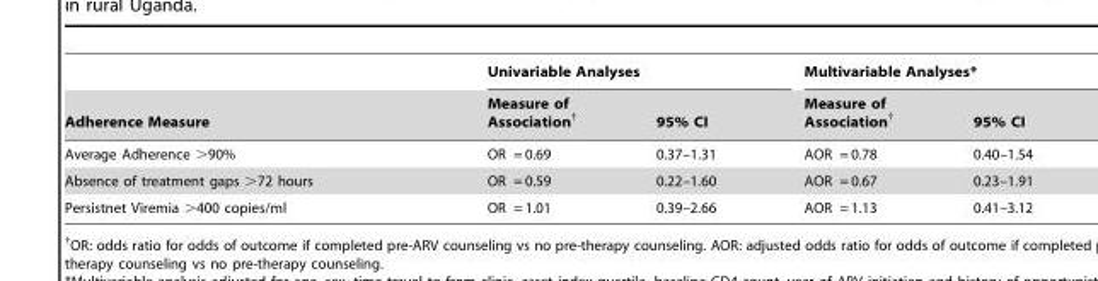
<table><thead><tr><td rowspan="2">Adherence Measure</td><td colspan="2">Univariable Analyses</td><td colspan="2">Multivariable Analyses*</td></tr><tr><td>Measure of Association†</td><td>95% CI</td><td>Measure of Association†</td><td>95% CI</td></tr></thead><tbody><tr><td>Average Adherence &gt;90%</td><td>OR = 0.69</td><td>0.37–1.31</td><td>AOR = 0.78</td><td>0.40–1.54</td></tr><tr><td>Absence of treatment gaps &gt;72 hours</td><td>OR = 0.59</td><td>0.22–1.60</td><td>AOR = 0.67</td><td>0.23–1.91</td></tr><tr><td>Persistnet Viremia &gt;400 copies/ml</td><td>OR = 1.01</td><td>0.39–2.66</td><td>AOR = 1.13</td><td>0.41–3.12</td></tr></tbody></table>